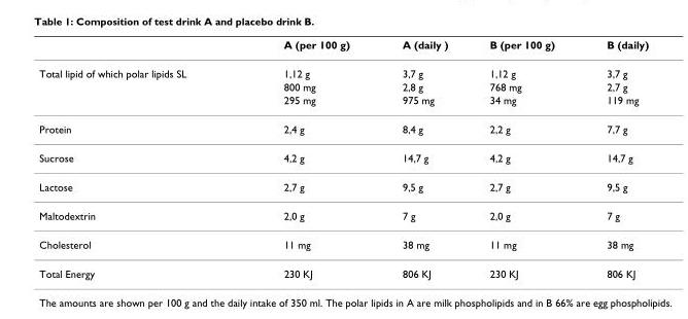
<table><thead><tr><td></td><td>A (per 100 g)</td><td>A (daily )</td><td>B (per 100 g)</td><td>B (daily)</td></tr></thead><tbody><tr><td rowspan="3">Total lipid of which polar lipids SL</td><td>1,12 g</td><td>3,7 g</td><td>1,12 g</td><td>3,7 g</td></tr><tr><td>800 mg</td><td>2,8 g</td><td>768 mg</td><td>2,7 g</td></tr><tr><td>295 mg</td><td>975 mg</td><td>34 mg</td><td>119 mg</td></tr><tr><td>Protein</td><td>2,4 g</td><td>8,4 g</td><td>2,2 g</td><td>7,7 g</td></tr><tr><td>Sucrose</td><td>4,2 g</td><td>14,7 g</td><td>4,2 g</td><td>14,7 g</td></tr><tr><td>Lactose</td><td>2,7 g</td><td>9,5 g</td><td>2,7 g</td><td>9,5 g</td></tr><tr><td>Maltodextrin</td><td>2,0 g</td><td>7 g</td><td>2,0 g</td><td>7 g</td></tr><tr><td>Cholesterol</td><td>11 mg</td><td>38 mg</td><td>11 mg</td><td>38 mg</td></tr><tr><td>Total Energy</td><td>230 KJ</td><td>806 KJ</td><td>230 KJ</td><td>806 KJ</td></tr></tbody></table>